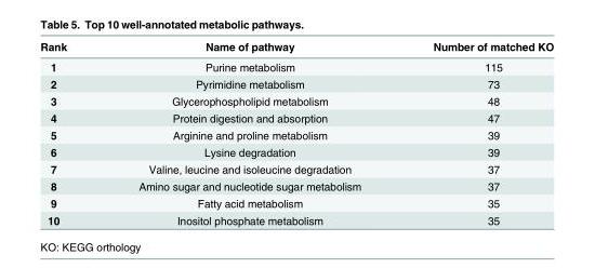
<table><thead><tr><td>Rank</td><td>Name of pathway</td><td>Number of matched KO</td></tr></thead><tbody><tr><td>1</td><td>Purine metabolism</td><td>115</td></tr><tr><td>2</td><td>Pyrimidine metabolism</td><td>73</td></tr><tr><td>3</td><td>Glycerophospholipid metabolism</td><td>48</td></tr><tr><td>4</td><td>Protein digestion and absorption</td><td>47</td></tr><tr><td>5</td><td>Arginine and proline metabolism</td><td>39</td></tr><tr><td>6</td><td>Lysine degradation</td><td>39</td></tr><tr><td>7</td><td>Valine, leucine and isoleucine degradation</td><td>37</td></tr><tr><td>8</td><td>Amino sugar and nucleotide sugar metabolism</td><td>37</td></tr><tr><td>9</td><td>Fatty acid metabolism</td><td>35</td></tr><tr><td>10</td><td>Inositol phosphate metabolism</td><td>35</td></tr></tbody></table>